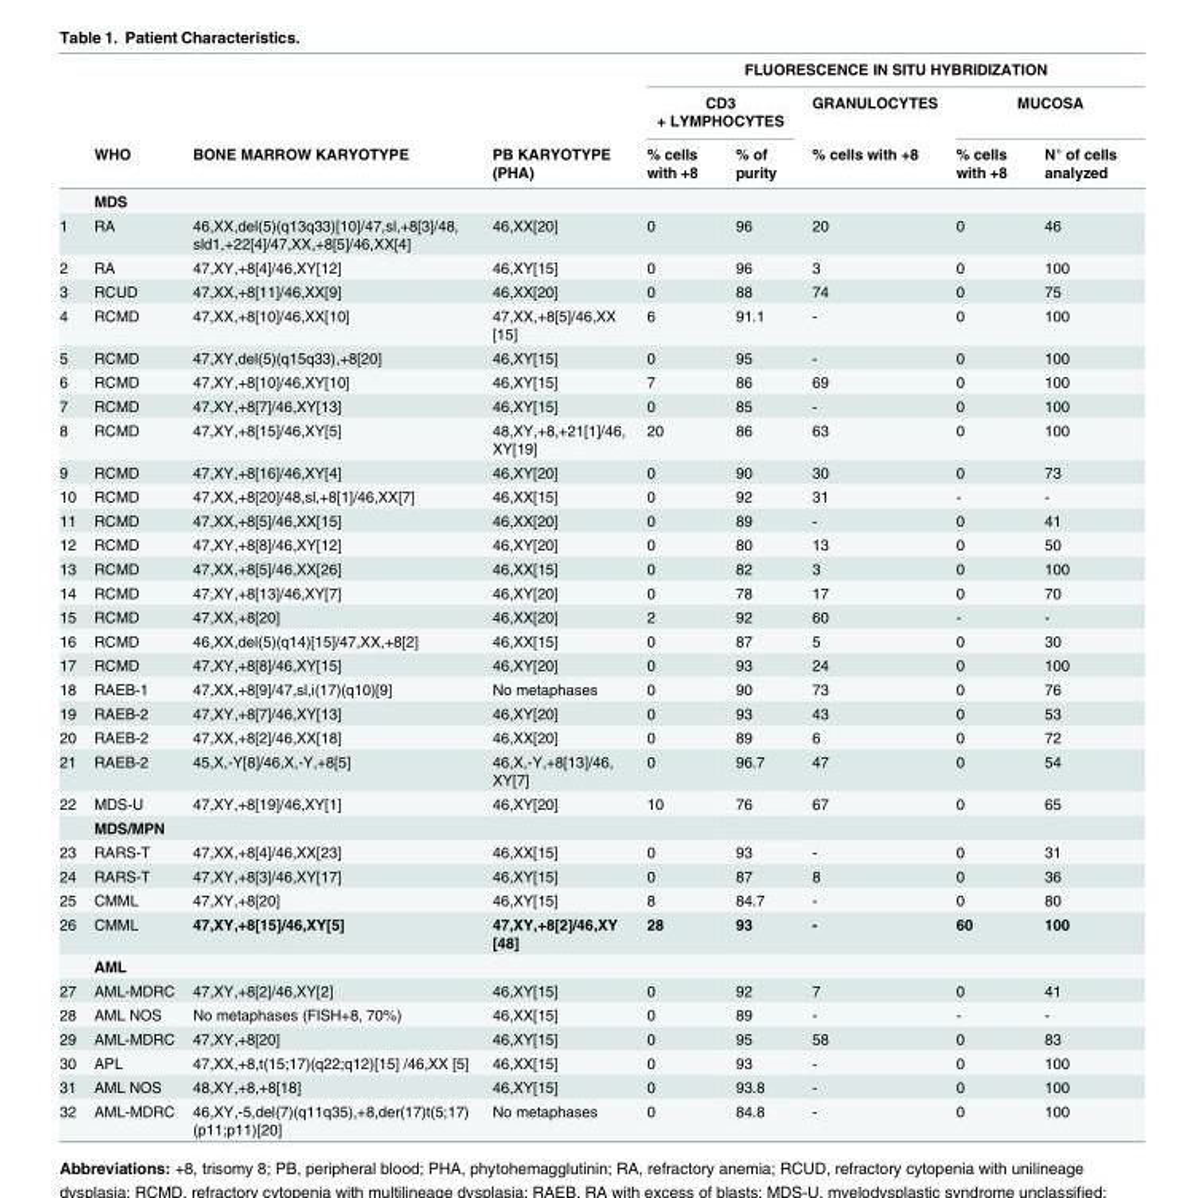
<table><thead><tr><td rowspan="3"></td><td rowspan="3">WHO</td><td rowspan="3">BONE MARROW KARYOTYPE</td><td rowspan="3">PB KARYOTYPE (PHA)</td><td colspan="5">FLUORESCENCE IN SITU HYBRIDIZATION</td></tr><tr><td colspan="2">CD3 + LYMPHOCYTES</td><td rowspan="2">GRANULOCYTES % cells with +8</td><td colspan="2">MUCOSA</td></tr><tr><td>% cells with +8</td><td>% of purity</td><td>% cells with +8</td><td>N° of cells analyzed</td></tr></thead><tbody><tr><td></td><td>MDS</td><td></td><td></td><td></td><td></td><td></td><td></td><td></td></tr><tr><td>1</td><td>RA</td><td>46,XX,del(5)(q13q33)[10]/47,sl,+8[3]/48, sld1,+22[4]/47,XX,+8[5]/46,XX[4]</td><td>46,XX[20]</td><td>0</td><td>96</td><td>20</td><td>0</td><td>46</td></tr><tr><td>2</td><td>RA</td><td>47,XY,+8[4]/46,XY[12]</td><td>46,XY[15]</td><td>0</td><td>96</td><td>3</td><td>0</td><td>100</td></tr><tr><td>3</td><td>RCUD</td><td>47,XX,+8[11]/46,XX[9]</td><td>46,XX[20]</td><td>0</td><td>88</td><td>74</td><td>0</td><td>75</td></tr><tr><td>4</td><td>RCMD</td><td>47,XX,+8[10]/46,XX[10]</td><td>47,XX,+8[5]/46,XX [15]</td><td>6</td><td>91.1</td><td>-</td><td>0</td><td>100</td></tr><tr><td>5</td><td>RCMD</td><td>47,XY,del(5)(q15q33),+8[20]</td><td>46,XY[15]</td><td>0</td><td>95</td><td>-</td><td>0</td><td>100</td></tr><tr><td>6</td><td>RCMD</td><td>47,XY,+8[10]/46,XY[10]</td><td>46,XY[15]</td><td>7</td><td>86</td><td>69</td><td>0</td><td>100</td></tr><tr><td>7</td><td>RCMD</td><td>47,XY,+8[7]/46,XY[13]</td><td>46,XY[15]</td><td>0</td><td>85</td><td>-</td><td>0</td><td>100</td></tr><tr><td>8</td><td>RCMD</td><td>47,XY,+8[15]/46,XY[5]</td><td>48,XY,+8,+21[1]/46, XY[19]</td><td>20</td><td>86</td><td>63</td><td>0</td><td>100</td></tr><tr><td>9</td><td>RCMD</td><td>47,XY,+8[16]/46,XY[4]</td><td>46,XY[20]</td><td>0</td><td>90</td><td>30</td><td>0</td><td>73</td></tr><tr><td>10</td><td>RCMD</td><td>47,XX,+8[20]/48,sl,+8[1]/46,XX[7]</td><td>46,XX[15]</td><td>0</td><td>92</td><td>31</td><td>-</td><td>-</td></tr><tr><td>11</td><td>RCMD</td><td>47,XX,+8[5]/46,XX[15]</td><td>46,XX[20]</td><td>0</td><td>89</td><td>-</td><td>0</td><td>41</td></tr><tr><td>12</td><td>RCMD</td><td>47,XY,+8[8]/46,XY[12]</td><td>46,XY[20]</td><td>0</td><td>80</td><td>13</td><td>0</td><td>50</td></tr><tr><td>13</td><td>RCMD</td><td>47,XX,+8[5]/46,XX[26]</td><td>46,XX[15]</td><td>0</td><td>82</td><td>3</td><td>0</td><td>100</td></tr><tr><td>14</td><td>RCMD</td><td>47,XY,+8[13]/46,XY[7]</td><td>46,XY[20]</td><td>0</td><td>78</td><td>17</td><td>0</td><td>70</td></tr><tr><td>15</td><td>RCMD</td><td>47,XX,+8[20]</td><td>46,XX[20]</td><td>2</td><td>92</td><td>60</td><td>-</td><td>-</td></tr><tr><td>16</td><td>RCMD</td><td>46,XX,del(5)(q14)[15]/47,XX,+8[2]</td><td>46,XX[15]</td><td>0</td><td>87</td><td>5</td><td>0</td><td>30</td></tr><tr><td>17</td><td>RCMD</td><td>47,XY,+8[8]/46,XY[15]</td><td>46,XY[20]</td><td>0</td><td>93</td><td>24</td><td>0</td><td>100</td></tr><tr><td>18</td><td>RAEB-1</td><td>47,XX,+8[9]/47,sl,i(17)(q10)[9]</td><td>No metaphases</td><td>0</td><td>90</td><td>73</td><td>0</td><td>76</td></tr><tr><td>19</td><td>RAEB-2</td><td>47,XY,+8[7]/46,XY[13]</td><td>46,XY[20]</td><td>0</td><td>93</td><td>43</td><td>0</td><td>53</td></tr><tr><td>20</td><td>RAEB-2</td><td>47,XX,+8[2]/46,XX[18]</td><td>46,XX[20]</td><td>0</td><td>89</td><td>6</td><td>0</td><td>72</td></tr><tr><td>21</td><td>RAEB-2</td><td>45,X,-Y[8]/46,X,-Y,+8[5]</td><td>46,X,-Y,+8[13]/46, XY[7]</td><td>0</td><td>96.7</td><td>47</td><td>0</td><td>54</td></tr><tr><td rowspan="2">22</td><td>MDS-U</td><td>47,XY,+8[19]/46,XY[1]</td><td>46,XY[20]</td><td>10</td><td>76</td><td>67</td><td>0</td><td>65</td></tr><tr><td>MDS/MPN</td><td></td><td></td><td></td><td></td><td></td><td></td><td></td></tr><tr><td>23</td><td>RARS-T</td><td>47,XX,+8[4]/46,XX[23]</td><td>46,XX[15]</td><td>0</td><td>93</td><td>-</td><td>0</td><td>31</td></tr><tr><td>24</td><td>RARS-T</td><td>47,XY,+8[3]/46,XY[17]</td><td>46,XY[15]</td><td>0</td><td>87</td><td>8</td><td>0</td><td>36</td></tr><tr><td>25</td><td>CMML</td><td>47,XY,+8[20]</td><td>46,XY[15]</td><td>8</td><td>84.7</td><td>-</td><td>0</td><td>80</td></tr><tr><td rowspan="2">26</td><td>CMML</td><td>47,XY,+8[15]/46,XY[5]</td><td>47,XY,+8[2]/46,XY [48]</td><td>28</td><td>93</td><td>-</td><td>60</td><td>100</td></tr><tr><td>AML</td><td></td><td></td><td></td><td></td><td></td><td></td><td></td></tr><tr><td>27</td><td>AML-MDRC</td><td>47,XY,+8[2]/46,XY[2]</td><td>46,XY[15]</td><td>0</td><td>92</td><td>7</td><td>0</td><td>41</td></tr><tr><td>28</td><td>AML NOS</td><td>No metaphases (FISH+8, 70%)</td><td>46,XX[15]</td><td>0</td><td>89</td><td>-</td><td>-</td><td>-</td></tr><tr><td>29</td><td>AML-MDRC</td><td>47,XY,+8[20]</td><td>46,XY[15]</td><td>0</td><td>95</td><td>58</td><td>0</td><td>83</td></tr><tr><td>30</td><td>APL</td><td>47,XX,+8,t(15;17)(q22;q12)[15] /46,XX [5]</td><td>46,XX[15]</td><td>0</td><td>93</td><td>-</td><td>0</td><td>100</td></tr><tr><td>31</td><td>AML NOS</td><td>48,XY,+8,+8[18]</td><td>46,XY[15]</td><td>0</td><td>93.8</td><td>-</td><td>0</td><td>100</td></tr><tr><td>32</td><td>AML-MDRC</td><td>46,XY,-5,del(7)(q11q35),+8,der(17)t(5;17) (p11;p11)[20]</td><td>No metaphases</td><td>0</td><td>84.8</td><td>-</td><td>0</td><td>100</td></tr></tbody></table>